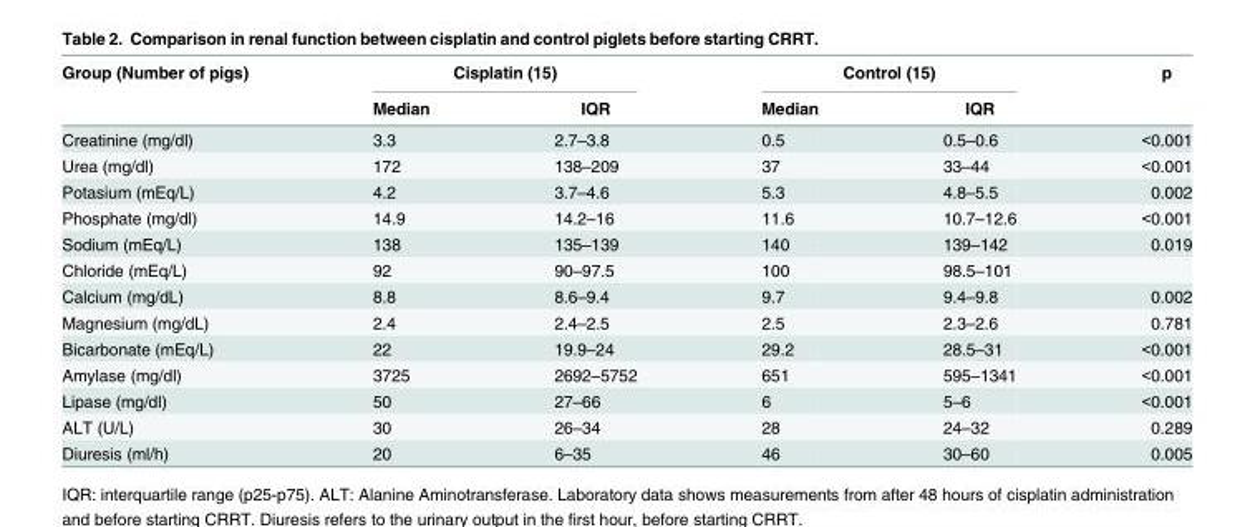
<table><thead><tr><td rowspan="2">Group (Number of pigs)</td><td colspan="2">Cisplatin (15)</td><td colspan="2">Control (15)</td><td rowspan="2">p</td></tr><tr><td>Median</td><td>IQR</td><td>Median</td><td>IQR</td></tr></thead><tbody><tr><td>Creatinine (mg/dl)</td><td>3.3</td><td>2.7–3.8</td><td>0.5</td><td>0.5–0.6</td><td>&lt;0.001</td></tr><tr><td>Urea (mg/dl)</td><td>172</td><td>138–209</td><td>37</td><td>33–44</td><td>&lt;0.001</td></tr><tr><td>Potasium (mEq/L)</td><td>4.2</td><td>3.7–4.6</td><td>5.3</td><td>4.8–5.5</td><td>0.002</td></tr><tr><td>Phosphate (mg/dl)</td><td>14.9</td><td>14.2–16</td><td>11.6</td><td>10.7–12.6</td><td>&lt;0.001</td></tr><tr><td>Sodium (mEq/L)</td><td>138</td><td>135–139</td><td>140</td><td>139–142</td><td>0.019</td></tr><tr><td>Chloride (mEq/L)</td><td>92</td><td>90–97.5</td><td>100</td><td>98.5–101</td><td></td></tr><tr><td>Calcium (mg/dL)</td><td>8.8</td><td>8.6–9.4</td><td>9.7</td><td>9.4–9.8</td><td>0.002</td></tr><tr><td>Magnesium (mg/dL)</td><td>2.4</td><td>2.4–2.5</td><td>2.5</td><td>2.3–2.6</td><td>0.781</td></tr><tr><td>Bicarbonate (mEq/L)</td><td>22</td><td>19.9–24</td><td>29.2</td><td>28.5–31</td><td>&lt;0.001</td></tr><tr><td>Amylase (mg/dl)</td><td>3725</td><td>2692–5752</td><td>651</td><td>595–1341</td><td>&lt;0.001</td></tr><tr><td>Lipase (mg/dl)</td><td>50</td><td>27–66</td><td>6</td><td>5–6</td><td>&lt;0.001</td></tr><tr><td>ALT (U/L)</td><td>30</td><td>26–34</td><td>28</td><td>24–32</td><td>0.289</td></tr><tr><td>Diuresis (ml/h)</td><td>20</td><td>6–35</td><td>46</td><td>30–60</td><td>0.005</td></tr></tbody></table>